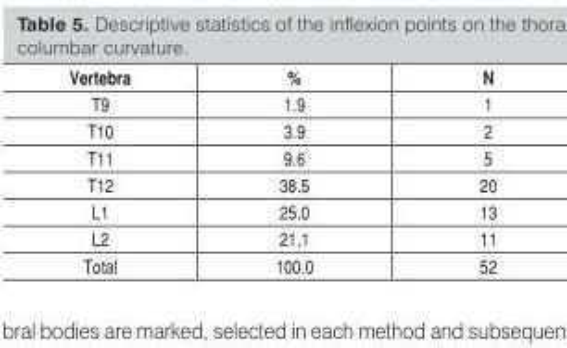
<table><thead><tr><td>Vertebra</td><td>%</td><td>N</td></tr></thead><tbody><tr><td>T9</td><td>1.9</td><td>1</td></tr><tr><td>T10</td><td>3.9</td><td>2</td></tr><tr><td>T11</td><td>9.6</td><td>5</td></tr><tr><td>T12</td><td>38.5</td><td>20</td></tr><tr><td>L1</td><td>25.0</td><td>13</td></tr><tr><td>L2</td><td>21.1</td><td>11</td></tr><tr><td>Total</td><td>100.0</td><td>52</td></tr></tbody></table>